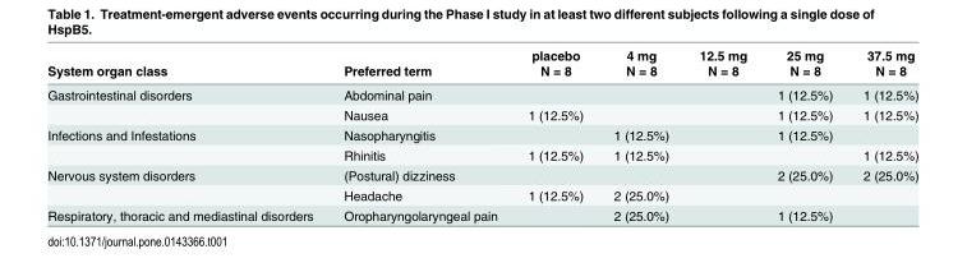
<table><thead><tr><td rowspan="2">System organ class</td><td rowspan="2">Preferred term</td><td rowspan="2">placebo N = 8</td><td rowspan="2">4 mg N = 8</td><td rowspan="2">12.5 mg N = 8</td><td rowspan="2">25 mg N = 8</td><td rowspan="2">37.5 mg N = 8</td></tr><tr></tr></thead><tbody><tr><td rowspan="2">Gastrointestinal disorders</td><td>Abdominal pain</td><td></td><td></td><td></td><td>1 (12.5%)</td><td>1 (12.5%)</td></tr><tr><td>Nausea</td><td>1 (12.5%)</td><td></td><td></td><td>1 (12.5%)</td><td>1 (12.5%)</td></tr><tr><td rowspan="2">Infections and Infestations</td><td>Nasopharyngitis</td><td></td><td>1 (12.5%)</td><td></td><td>1 (12.5%)</td><td></td></tr><tr><td>Rhinitis</td><td>1 (12.5%)</td><td>1 (12.5%)</td><td></td><td></td><td>1 (12.5%)</td></tr><tr><td rowspan="2">Nervous system disorders</td><td>(Postural) dizziness</td><td></td><td></td><td></td><td>2 (25.0%)</td><td>2 (25.0%)</td></tr><tr><td>Headache</td><td>1 (12.5%)</td><td>2 (25.0%)</td><td></td><td></td><td></td></tr><tr><td>Respiratory, thoracic and mediastinal disorders</td><td>Oropharyngolaryngeal pain</td><td></td><td>2 (25.0%)</td><td></td><td>1 (12.5%)</td><td></td></tr></tbody></table>